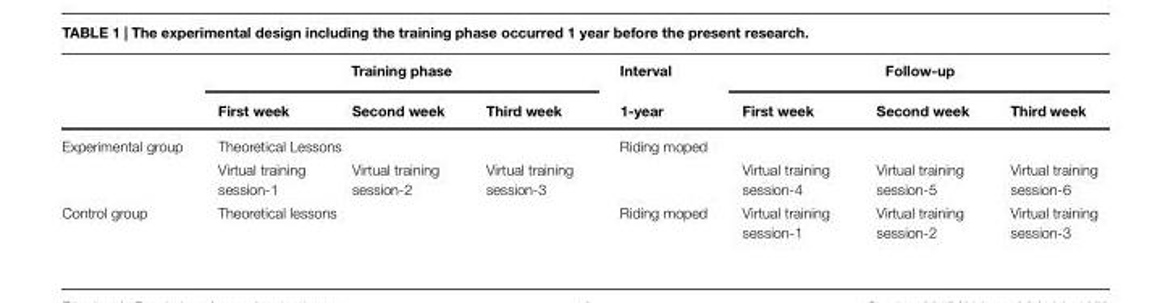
<table><thead><tr><td rowspan="2"></td><td colspan="3">Training phase</td><td rowspan="2">Interval 1-year</td><td colspan="3">Follow-up</td></tr><tr><td>First week</td><td>Second week</td><td>Third week</td><td>First week</td><td>Second week</td><td>Third week</td></tr></thead><tbody><tr><td rowspan="2">Experimental group</td><td colspan="3">Theoretical Lessons</td><td>Riding moped</td><td></td><td></td><td></td></tr><tr><td>Virtual training session-1</td><td>Virtual training session-2</td><td>Virtual training session-3</td><td></td><td>Virtual training session-4</td><td>Virtual training session-5</td><td>Virtual training session-6</td></tr><tr><td>Control group</td><td colspan="3">Theoretical lessons</td><td>Riding moped</td><td>Virtual training session-1</td><td>Virtual training session-2</td><td>Virtual training session-3</td></tr></tbody></table>